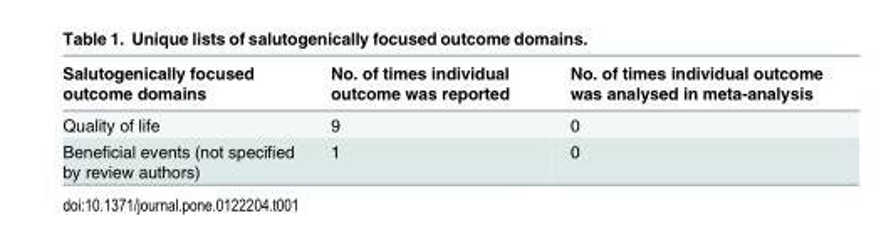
<table><thead><tr><td>Salutogenically focused outcome domains</td><td>No. of times individual outcome was reported</td><td>No. of times individual outcome was analysed in meta-analysis</td></tr></thead><tbody><tr><td>Quality of life</td><td>9</td><td>0</td></tr><tr><td>Beneficial events (not specified by review authors)</td><td>1</td><td>0</td></tr></tbody></table>